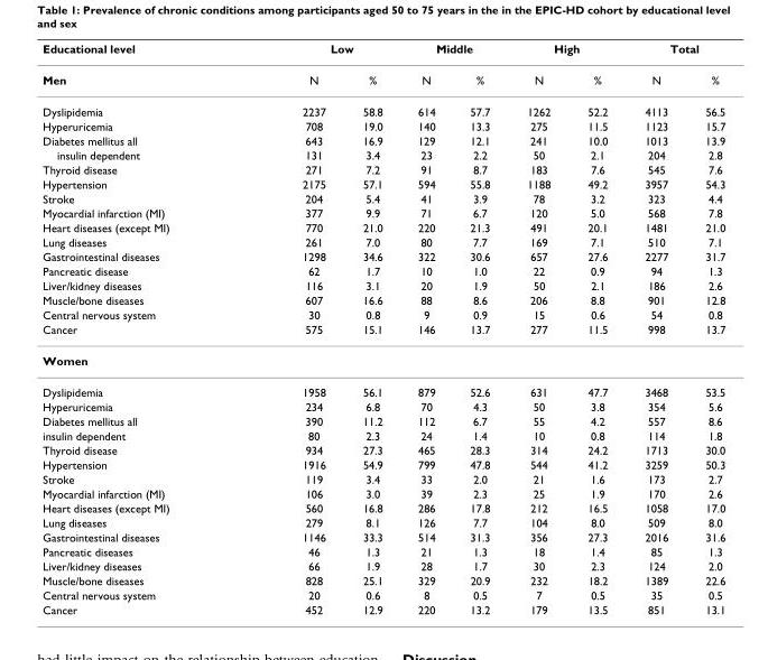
<table><thead><tr><td rowspan="2">Educational level Men</td><td colspan="2">Low</td><td colspan="2">Middle</td><td colspan="2">High</td><td colspan="2">Total</td></tr><tr><td>N</td><td>%</td><td>N</td><td>%</td><td>N</td><td>%</td><td>N</td><td>%</td></tr></thead><tbody><tr><td>Dyslipidemia</td><td>2237</td><td>58.8</td><td>614</td><td>57.7</td><td>1262</td><td>52.2</td><td>4113</td><td>56.5</td></tr><tr><td>Hyperuricemia</td><td>708</td><td>19.0</td><td>140</td><td>13.3</td><td>275</td><td>11.5</td><td>1123</td><td>15.7</td></tr><tr><td>Diabetes mellitus all</td><td>643</td><td>16.9</td><td>129</td><td>12.1</td><td>241</td><td>10.0</td><td>1013</td><td>13.9</td></tr><tr><td>insulin dependent</td><td>131</td><td>3.4</td><td>23</td><td>2.2</td><td>50</td><td>2.1</td><td>204</td><td>2.8</td></tr><tr><td>Thyroid disease</td><td>271</td><td>7.2</td><td>91</td><td>8.7</td><td>183</td><td>7.6</td><td>545</td><td>7.6</td></tr><tr><td>Hypertension</td><td>2175</td><td>57.1</td><td>594</td><td>55.8</td><td>1188</td><td>49.2</td><td>3957</td><td>54.3</td></tr><tr><td>Stroke</td><td>204</td><td>5.4</td><td>41</td><td>3.9</td><td>78</td><td>3.2</td><td>323</td><td>4.4</td></tr><tr><td>Myocardial infarction (MI)</td><td>377</td><td>9.9</td><td>71</td><td>6.7</td><td>120</td><td>5.0</td><td>568</td><td>7.8</td></tr><tr><td>Heart diseases (except MI)</td><td>770</td><td>21.0</td><td>220</td><td>21.3</td><td>491</td><td>20.1</td><td>1481</td><td>21.0</td></tr><tr><td>Lung diseases</td><td>261</td><td>7.0</td><td>80</td><td>7.7</td><td>169</td><td>7.1</td><td>510</td><td>7.1</td></tr><tr><td>Gastrointestinal diseases</td><td>1298</td><td>34.6</td><td>322</td><td>30.6</td><td>657</td><td>27.6</td><td>2277</td><td>31.7</td></tr><tr><td>Pancreatic disease</td><td>62</td><td>1.7</td><td>10</td><td>1.0</td><td>22</td><td>0.9</td><td>94</td><td>1.3</td></tr><tr><td>Liver/kidney diseases</td><td>116</td><td>3.1</td><td>20</td><td>1.9</td><td>50</td><td>2.1</td><td>186</td><td>2.6</td></tr><tr><td>Muscle/bone diseases</td><td>607</td><td>16.6</td><td>88</td><td>8.6</td><td>206</td><td>8.8</td><td>901</td><td>12.8</td></tr><tr><td>Central nervous system</td><td>30</td><td>0.8</td><td>9</td><td>0.9</td><td>15</td><td>0.6</td><td>54</td><td>0.8</td></tr><tr><td>Cancer</td><td>575</td><td>15.1</td><td>146</td><td>13.7</td><td>277</td><td>11.5</td><td>998</td><td>13.7</td></tr><tr><td colspan="9">Women</td></tr><tr><td>Dyslipidemia</td><td>1958</td><td>56.1</td><td>879</td><td>52.6</td><td>631</td><td>47.7</td><td>3468</td><td>53.5</td></tr><tr><td>Hyperuricemia</td><td>234</td><td>6.8</td><td>70</td><td>4.3</td><td>50</td><td>3.8</td><td>354</td><td>5.6</td></tr><tr><td>Diabetes mellitus all</td><td>390</td><td>11.2</td><td>112</td><td>6.7</td><td>55</td><td>4.2</td><td>557</td><td>8.6</td></tr><tr><td>insulin dependent</td><td>80</td><td>2.3</td><td>24</td><td>1.4</td><td>10</td><td>0.8</td><td>114</td><td>1.8</td></tr><tr><td>Thyroid disease</td><td>934</td><td>27.3</td><td>465</td><td>28.3</td><td>314</td><td>24.2</td><td>1713</td><td>30.0</td></tr><tr><td>Hypertension</td><td>1916</td><td>54.9</td><td>799</td><td>47.8</td><td>544</td><td>41.2</td><td>3259</td><td>50.3</td></tr><tr><td>Stroke</td><td>119</td><td>3.4</td><td>33</td><td>2.0</td><td>21</td><td>1.6</td><td>173</td><td>2.7</td></tr><tr><td>Myocardial infarction (MI)</td><td>106</td><td>3.0</td><td>39</td><td>2.3</td><td>25</td><td>1.9</td><td>170</td><td>2.6</td></tr><tr><td>Heart diseases (except MI)</td><td>560</td><td>16.8</td><td>286</td><td>17.8</td><td>212</td><td>16.5</td><td>1058</td><td>17.0</td></tr><tr><td>Lung diseases</td><td>279</td><td>8.1</td><td>126</td><td>7.7</td><td>104</td><td>8.0</td><td>509</td><td>8.0</td></tr><tr><td>Gastrointestinal diseases</td><td>1146</td><td>33.3</td><td>514</td><td>31.3</td><td>356</td><td>27.3</td><td>2016</td><td>31.6</td></tr><tr><td>Pancreatic diseases</td><td>46</td><td>1.3</td><td>21</td><td>1.3</td><td>18</td><td>1.4</td><td>85</td><td>1.3</td></tr><tr><td>Liver/kidney diseases</td><td>66</td><td>1.9</td><td>28</td><td>1.7</td><td>30</td><td>2.3</td><td>124</td><td>2.0</td></tr><tr><td>Muscle/bone diseases</td><td>828</td><td>25.1</td><td>329</td><td>20.9</td><td>232</td><td>18.2</td><td>1389</td><td>22.6</td></tr><tr><td>Central nervous system</td><td>20</td><td>0.6</td><td>8</td><td>0.5</td><td>7</td><td>0.5</td><td>35</td><td>0.5</td></tr><tr><td>Cancer</td><td>452</td><td>12.9</td><td>220</td><td>13.2</td><td>179</td><td>13.5</td><td>851</td><td>13.1</td></tr></tbody></table>